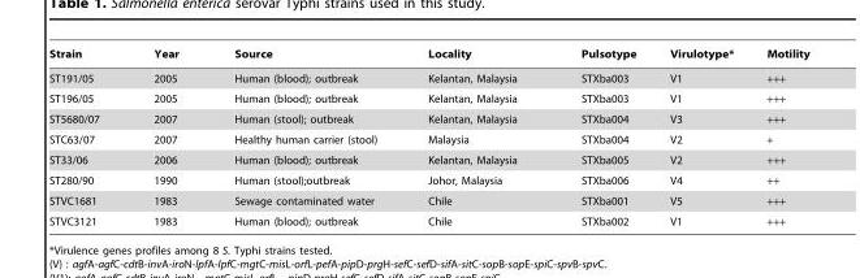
<table><thead><tr><td>Strain</td><td>Year</td><td>Source</td><td>Locality</td><td>Pulsotype</td><td>Virulotype*</td><td>Motility</td></tr></thead><tbody><tr><td>ST191/05</td><td>2005</td><td>Human (blood); outbreak</td><td>Kelantan, Malaysia</td><td>STXba003</td><td>V1</td><td>+++</td></tr><tr><td>ST196/05</td><td>2005</td><td>Human (blood); outbreak</td><td>Kelantan, Malaysia</td><td>STXba003</td><td>V1</td><td>+++</td></tr><tr><td>ST5680/07</td><td>2007</td><td>Human (stool); outbreak</td><td>Kelantan, Malaysia</td><td>STXba004</td><td>V3</td><td>+++</td></tr><tr><td>STC63/07</td><td>2007</td><td>Healthy human carrier (stool)</td><td>Malaysia</td><td>STXba004</td><td>V2</td><td>+</td></tr><tr><td>ST33/06</td><td>2006</td><td>Human (blood); outbreak</td><td>Kelantan, Malaysia</td><td>STXba005</td><td>V2</td><td>+++</td></tr><tr><td>ST280/90</td><td>1990</td><td>Human (stool);outbreak</td><td>Johor, Malaysia</td><td>STXba006</td><td>V4</td><td>++</td></tr><tr><td>STVC1681</td><td>1983</td><td>Sewage contaminated water</td><td>Chile</td><td>STXba001</td><td>V5</td><td>+++</td></tr><tr><td>STVC3121</td><td>1983</td><td>Human (blood); outbreak</td><td>Chile</td><td>STXba002</td><td>V1</td><td>+++</td></tr></tbody></table>